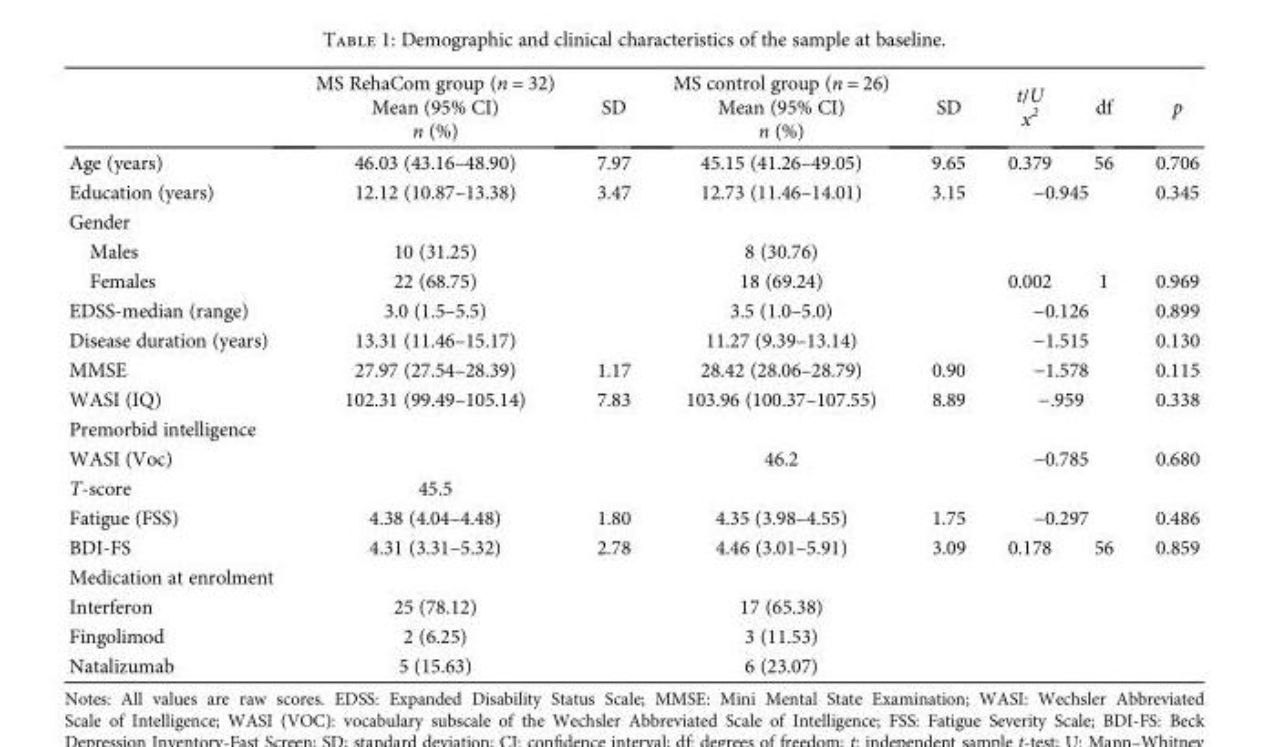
<table><thead><tr><td></td><td>MS RehaCom group (n = 32) Mean (95% CI) n (%)</td><td>SD</td><td>MS control group (n = 26) Mean (95% CI) n (%)</td><td>SD</td><td>t/U x<sup>2</sup></td><td>df</td><td>p</td></tr></thead><tbody><tr><td>Age (years)</td><td>46.03 (43.16–48.90)</td><td>7.97</td><td>45.15 (41.26–49.05)</td><td>9.65</td><td>0.379</td><td>56</td><td>0.706</td></tr><tr><td>Education (years)</td><td>12.12 (10.87–13.38)</td><td>3.47</td><td>12.73 (11.46–14.01)</td><td>3.15</td><td colspan="2">−0.945</td><td>0.345</td></tr><tr><td colspan="8">Gender</td></tr><tr><td>Males</td><td>10 (31.25)</td><td rowspan="2"></td><td>8 (30.76)</td><td rowspan="2"></td><td></td><td></td><td></td></tr><tr><td>Females</td><td>22 (68.75)</td><td>18 (69.24)</td><td>0.002</td><td>1</td><td>0.969</td></tr><tr><td>EDSS-median (range)</td><td>3.0 (1.5–5.5)</td><td></td><td>3.5 (1.0–5.0)</td><td></td><td colspan="2">−0.126</td><td>0.899</td></tr><tr><td>Disease duration (years)</td><td>13.31 (11.46–15.17)</td><td></td><td>11.27 (9.39–13.14)</td><td></td><td colspan="2">−1.515</td><td>0.130</td></tr><tr><td>MMSE</td><td>27.97 (27.54–28.39)</td><td>1.17</td><td>28.42 (28.06–28.79)</td><td>0.90</td><td colspan="2">−1.578</td><td>0.115</td></tr><tr><td>WASI (IQ)</td><td>102.31 (99.49–105.14)</td><td>7.83</td><td>103.96 (100.37–107.55)</td><td>8.89</td><td colspan="2">−.959</td><td>0.338</td></tr><tr><td colspan="8">Premorbid intelligence</td></tr><tr><td>WASI (Voc)</td><td></td><td></td><td>46.2</td><td></td><td colspan="2">−0.785</td><td>0.680</td></tr><tr><td>T-score</td><td>45.5</td><td></td><td></td><td></td><td></td><td></td><td></td></tr><tr><td>Fatigue (FSS)</td><td>4.38 (4.04–4.48)</td><td>1.80</td><td>4.35 (3.98–4.55)</td><td>1.75</td><td colspan="2">−0.297</td><td>0.486</td></tr><tr><td>BDI-FS</td><td>4.31 (3.31–5.32)</td><td>2.78</td><td>4.46 (3.01–5.91)</td><td>3.09</td><td>0.178</td><td>56</td><td>0.859</td></tr><tr><td colspan="8">Medication at enrolment</td></tr><tr><td>Interferon</td><td>25 (78.12)</td><td></td><td>17 (65.38)</td><td></td><td></td><td></td><td></td></tr><tr><td>Fingolimod</td><td>2 (6.25)</td><td></td><td>3 (11.53)</td><td></td><td></td><td></td><td></td></tr><tr><td>Natalizumab</td><td>5 (15.63)</td><td></td><td>6 (23.07)</td><td></td><td></td><td></td><td></td></tr></tbody></table>